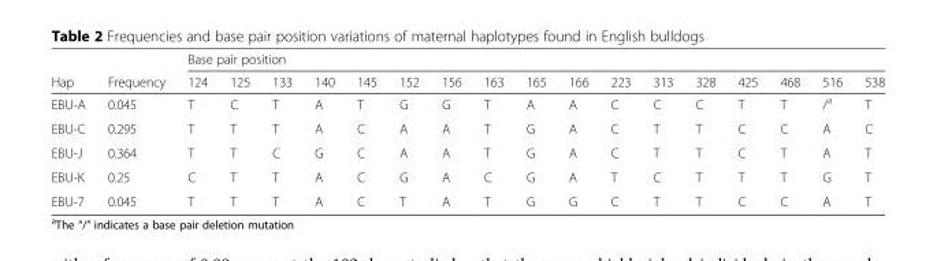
<table><thead><tr><td rowspan="2">Hap</td><td rowspan="2">Frequency</td><td colspan="17">Base pair position</td></tr><tr><td>124</td><td>125</td><td>133</td><td>140</td><td>145</td><td>152</td><td>156</td><td>163</td><td>165</td><td>166</td><td>223</td><td>313</td><td>328</td><td>425</td><td>468</td><td>516</td><td>538</td></tr></thead><tbody><tr><td>EBU-A</td><td>0.045</td><td>T</td><td>C</td><td>T</td><td>A</td><td>T</td><td>G</td><td>G</td><td>T</td><td>A</td><td>A</td><td>C</td><td>C</td><td>C</td><td>T</td><td>T</td><td>/<sup>a</sup></td><td>T</td></tr><tr><td>EBU-C</td><td>0.295</td><td>T</td><td>T</td><td>T</td><td>A</td><td>C</td><td>A</td><td>A</td><td>T</td><td>G</td><td>A</td><td>C</td><td>T</td><td>T</td><td>C</td><td>C</td><td>A</td><td>C</td></tr><tr><td>EBU-J</td><td>0.364</td><td>T</td><td>T</td><td>C</td><td>G</td><td>C</td><td>A</td><td>A</td><td>T</td><td>G</td><td>A</td><td>C</td><td>T</td><td>T</td><td>C</td><td>T</td><td>A</td><td>T</td></tr><tr><td>EBU-K</td><td>0.25</td><td>C</td><td>T</td><td>T</td><td>A</td><td>C</td><td>G</td><td>A</td><td>C</td><td>G</td><td>A</td><td>T</td><td>C</td><td>T</td><td>T</td><td>T</td><td>G</td><td>T</td></tr><tr><td>EBU-7</td><td>0.045</td><td>T</td><td>T</td><td>T</td><td>A</td><td>C</td><td>T</td><td>A</td><td>T</td><td>G</td><td>G</td><td>C</td><td>T</td><td>T</td><td>C</td><td>C</td><td>A</td><td>T</td></tr></tbody></table>